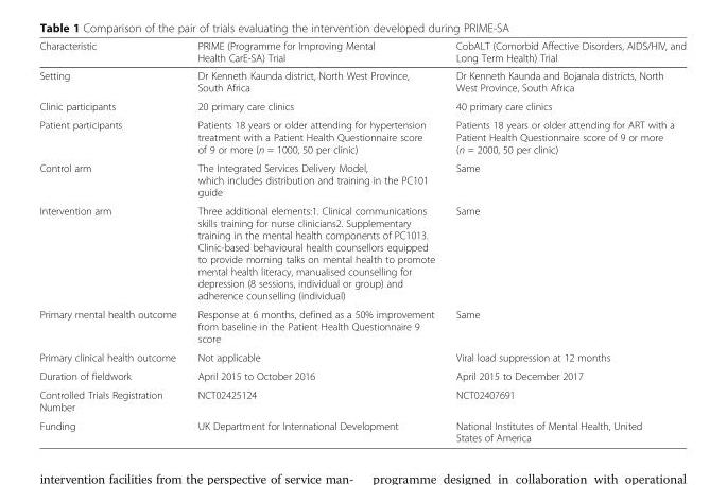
<table><thead><tr><td>Characteristic</td><td>PRIME (Programme for Improving Mental Health CarE-SA) Trial</td><td>CobALT (Comorbid Affective Disorders, AIDS/HIV, and Long Term Health) Trial</td></tr></thead><tbody><tr><td>Setting</td><td>Dr Kenneth Kaunda district, North West Province, South Africa</td><td>Dr Kenneth Kaunda and Bojanala districts, North West Province, South Africa</td></tr><tr><td>Clinic participants</td><td>20 primary care clinics</td><td>40 primary care clinics</td></tr><tr><td>Patient participants</td><td>Patients 18 years or older attending for hypertension treatment with a Patient Health Questionnaire score of 9 or more (n = 1000, 50 per clinic)</td><td>Patients 18 years or older attending for ART with a Patient Health Questionnaire score of 9 or more (n = 2000, 50 per clinic)</td></tr><tr><td>Control arm</td><td>The Integrated Services Delivery Model, which includes distribution and training in the PC101 guide</td><td>Same</td></tr><tr><td>Intervention arm</td><td>Three additional elements:1. Clinical communications skills training for nurse clinicians2. Supplementary training in the mental health components of PC1013. Clinic-based behavioural health counsellors equipped to provide morning talks on mental health to promote mental health literacy, manualised counselling for depression (8 sessions, individual or group) and adherence counselling (individual)</td><td>Same</td></tr><tr><td>Primary mental health outcome</td><td>Response at 6 months, defined as a 50% improvement from baseline in the Patient Health Questionnaire 9 score</td><td>Same</td></tr><tr><td>Primary clinical health outcome</td><td>Not applicable</td><td>Viral load suppression at 12 months</td></tr><tr><td>Duration of fieldwork</td><td>April 2015 to October 2016</td><td>April 2015 to December 2017</td></tr><tr><td>Controlled Trials Registration Number</td><td>NCT02425124</td><td>NCT02407691</td></tr><tr><td>Funding</td><td>UK Department for International Development</td><td>National Institutes of Mental Health, United States of America</td></tr></tbody></table>